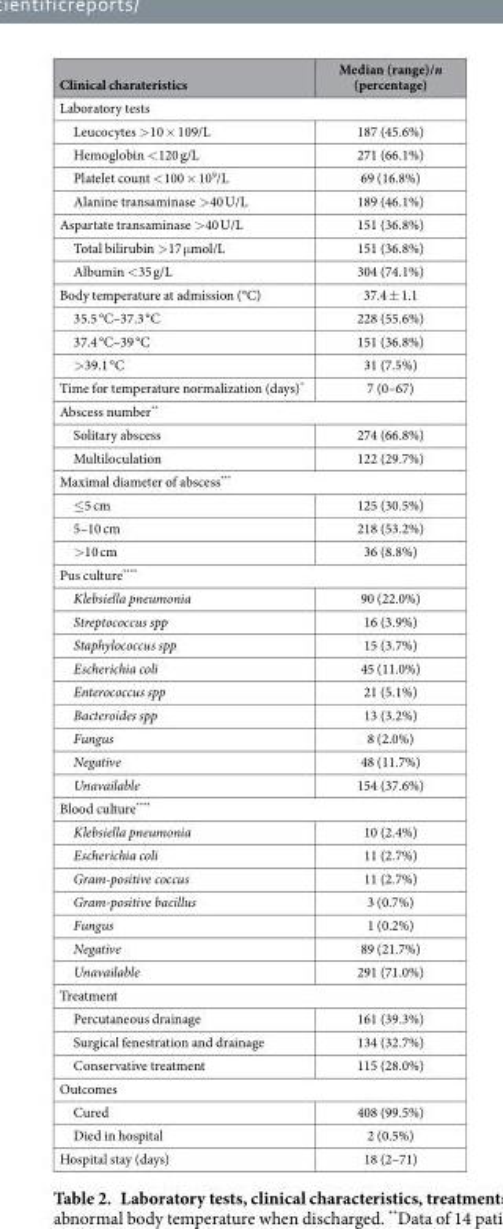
<table><thead><tr><td>Clinical charateristics</td><td>Median (range)/n (percentage)</td></tr></thead><tbody><tr><td colspan="2">Laboratory tests</td></tr><tr><td>Leucocytes &gt; 10 × 109/L</td><td>187 (45.6%)</td></tr><tr><td>Hemoglobin &lt; 120 g/L</td><td>271 (66.1%)</td></tr><tr><td>Platelet count &lt; 100 × 10<sup>9</sup>/L</td><td>69 (16.8%)</td></tr><tr><td>Alanine transaminase &gt; 40 U/L</td><td>189 (46.1%)</td></tr><tr><td>Aspartate transaminase &gt; 40 U/L</td><td>151 (36.8%)</td></tr><tr><td>Total bilirubin &gt; 17 μ mol/L</td><td>151 (36.8%)</td></tr><tr><td>Albumin &lt; 35 g/L</td><td>304 (74.1%)</td></tr><tr><td>Body temperature at admission (°C)</td><td>37.4 ± 1.1</td></tr><tr><td>35.5 °C–37.3 °C</td><td>228 (55.6%)</td></tr><tr><td>37.4 °C–39 °C</td><td>151 (36.8%)</td></tr><tr><td>&gt; 39.1 °C</td><td>31 (7.5%)</td></tr><tr><td>Time for temperature normalization (days)*</td><td>7 (0–67)</td></tr><tr><td colspan="2">Abscess number**</td></tr><tr><td>Solitary abscess</td><td>274 (66.8%)</td></tr><tr><td>Multiloculation</td><td>122 (29.7%)</td></tr><tr><td colspan="2">Maximal diameter of abscess***</td></tr><tr><td>≤ 5 cm</td><td>125 (30.5%)</td></tr><tr><td>5–10 cm</td><td>218 (53.2%)</td></tr><tr><td>&gt; 10 cm</td><td>36 (8.8%)</td></tr><tr><td colspan="2">Pus culture****</td></tr><tr><td>Klebsiella pneumonia</td><td>90 (22.0%)</td></tr><tr><td>Streptococcus spp</td><td>16 (3.9%)</td></tr><tr><td>Staphylococcus spp</td><td>15 (3.7%)</td></tr><tr><td>Escherichia coli</td><td>45 (11.0%)</td></tr><tr><td>Enterococcus spp</td><td>21 (5.1%)</td></tr><tr><td>Bacteroides spp</td><td>13 (3.2%)</td></tr><tr><td>Fungus</td><td>8 (2.0%)</td></tr><tr><td>Negative</td><td>48 (11.7%)</td></tr><tr><td>Unavailable</td><td>154 (37.6%)</td></tr><tr><td colspan="2">Blood culture****</td></tr><tr><td>Klebsiella pneumonia</td><td>10 (2.4%)</td></tr><tr><td>Escherichia coli</td><td>11 (2.7%)</td></tr><tr><td>Gram-positive coccus</td><td>11 (2.7%)</td></tr><tr><td>Gram-positive bacillus</td><td>3 (0.7%)</td></tr><tr><td>Fungus</td><td>1 (0.2%)</td></tr><tr><td>Negative</td><td>89 (21.7%)</td></tr><tr><td>Unavailable</td><td>291 (71.0%)</td></tr><tr><td colspan="2">Treatment</td></tr><tr><td>Percutaneous drainage</td><td>161 (39.3%)</td></tr><tr><td>Surgical fenestration and drainage</td><td>134 (32.7%)</td></tr><tr><td>Conservative treatment</td><td>115 (28.0%)</td></tr><tr><td colspan="2">Outcomes</td></tr><tr><td>Cured</td><td>408 (99.5%)</td></tr><tr><td>Died in hospital</td><td>2 (0.5%)</td></tr><tr><td>Hospital stay (days)</td><td>18 (2–71)</td></tr></tbody></table>